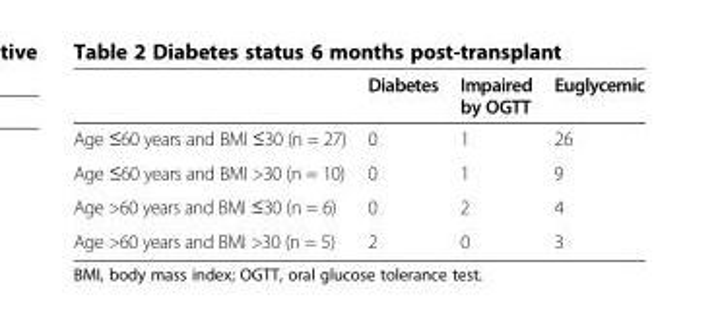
<table><thead><tr><td></td><td>Diabetes</td><td>Impaired by OGTT</td><td>Euglycemic</td></tr></thead><tbody><tr><td>Age ≤60 years and BMI ≤30 (n = 27)</td><td>0</td><td>1</td><td>26</td></tr><tr><td>Age ≤60 years and BMI &gt;30 (n = 10)</td><td>0</td><td>1</td><td>9</td></tr><tr><td>Age &gt;60 years and BMI ≤30 (n = 6)</td><td>0</td><td>2</td><td>4</td></tr><tr><td>Age &gt;60 years and BMI &gt;30 (n = 5)</td><td>2</td><td>0</td><td>3</td></tr></tbody></table>